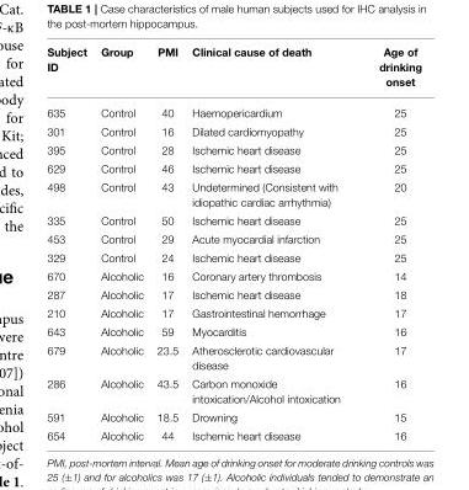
<table><thead><tr><td>Subject ID</td><td>Group</td><td>PMI</td><td>Clinical cause of death</td><td>Age of drinking onset</td></tr></thead><tbody><tr><td>635</td><td>Control</td><td>40</td><td>Haemopericardium</td><td>25</td></tr><tr><td>301</td><td>Control</td><td>16</td><td>Dilated cardiomyopathy</td><td>25</td></tr><tr><td>395</td><td>Control</td><td>28</td><td>Ischemic heart disease</td><td>25</td></tr><tr><td>629</td><td>Control</td><td>46</td><td>Ischemic heart disease</td><td>25</td></tr><tr><td>498</td><td>Control</td><td>43</td><td>Undetermined (Consistent with idiopathic cardiac arrhythmia)</td><td>20</td></tr><tr><td>335</td><td>Control</td><td>50</td><td>Ischemic heart disease</td><td>25</td></tr><tr><td>453</td><td>Control</td><td>29</td><td>Acute myocardial infarction</td><td>25</td></tr><tr><td>329</td><td>Control</td><td>24</td><td>Ischemic heart disease</td><td>25</td></tr><tr><td>670</td><td>Alcoholic</td><td>16</td><td>Coronary artery thrombosis</td><td>14</td></tr><tr><td>287</td><td>Alcoholic</td><td>17</td><td>Ischemic heart disease</td><td>18</td></tr><tr><td>210</td><td>Alcoholic</td><td>17</td><td>Gastrointestinal hemorrhage</td><td>17</td></tr><tr><td>643</td><td>Alcoholic</td><td>59</td><td>Myocarditis</td><td>16</td></tr><tr><td>679</td><td>Alcoholic</td><td>23.5</td><td>Atherosclerotic cardiovascular disease</td><td>17</td></tr><tr><td>286</td><td>Alcoholic</td><td>43.5</td><td>Carbon monoxide intoxication/Alcohol intoxication</td><td>16</td></tr><tr><td>591</td><td>Alcoholic</td><td>18.5</td><td>Drowning</td><td>15</td></tr><tr><td>654</td><td>Alcoholic</td><td>44</td><td>Ischemic heart disease</td><td>16</td></tr></tbody></table>